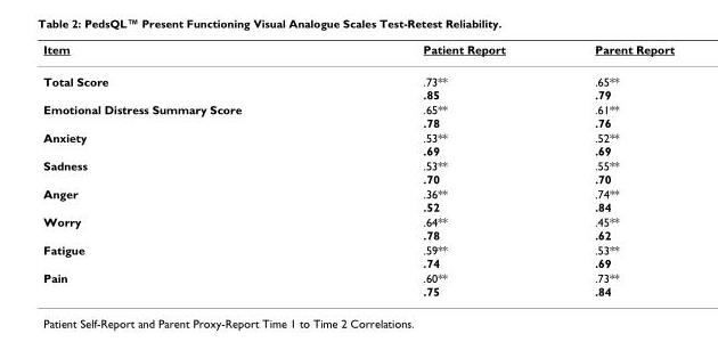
<table><thead><tr><td>Item</td><td>Patient Report</td><td>Parent Report</td></tr></thead><tbody><tr><td>Total Score</td><td>.73** .85</td><td>.65** .79</td></tr><tr><td>Emotional Distress Summary Score</td><td>.65** .78</td><td>.61** .76</td></tr><tr><td>Anxiety</td><td>.53** .69</td><td>.52** .69</td></tr><tr><td>Sadness</td><td>.53** .70</td><td>.55** .70</td></tr><tr><td>Anger</td><td>.36** .52</td><td>.74** .84</td></tr><tr><td>Worry</td><td>.64** .78</td><td>.45** .62</td></tr><tr><td>Fatigue</td><td>.59** .74</td><td>.53** .69</td></tr><tr><td>Pain</td><td>.60** .75</td><td>.73** .84</td></tr></tbody></table>